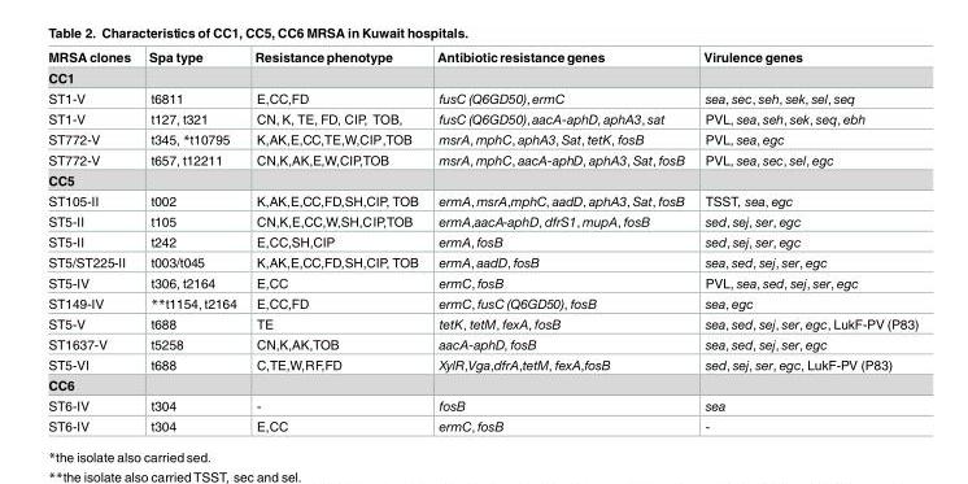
<table><thead><tr><td>MRSA clones</td><td>Spa type</td><td>Resistance phenotype</td><td>Antibioticresistance genes</td><td>Virulence genes</td></tr></thead><tbody><tr><td colspan="5">CC1</td></tr><tr><td>ST1-V</td><td>t6811</td><td>E,CC,FD</td><td>fusC (Q6GD50), ermC</td><td>sea, sec, seh, sek, sel, seq</td></tr><tr><td>ST1-V</td><td>t127, t321</td><td>CN, K, TE, FD, CIP, TOB,</td><td>fusC (Q6GD50), aacA-aphD, aphA3, sat</td><td>PVL, sea, seh, sek, seq, ebh</td></tr><tr><td>ST772-V</td><td>t345, *t10795</td><td>K,AK,E,CC,TE,W,CIP,TOB</td><td>msrA, mphC, aphA3, Sat, tetK, fosB</td><td>PVL, sea, egc</td></tr><tr><td>ST772-V</td><td>t657, t12211</td><td>CN,K,AK,E,W,CIP,TOB</td><td>msrA, mphC, aacA-aphD, aphA3, Sat, fosB</td><td>PVL, sea, sec, sel, egc</td></tr><tr><td colspan="5">CC5</td></tr><tr><td>ST105-II</td><td>t002</td><td>K,AK,E,CC,FD,SH,CIP, TOB</td><td>ermA, msrA,mphC, aadD, aphA3, Sat, fosB</td><td>TSST, sea, egc</td></tr><tr><td>ST5-II</td><td>t105</td><td>CN,K,E,CC,W,SH,CIP,TOB</td><td>ermA,aacA-aphD, dfrS1, mupA, fosB</td><td>sed, sej, ser, egc</td></tr><tr><td>ST5-II</td><td>t242</td><td>E,CC,SH,CIP</td><td>ermA, fosB</td><td>sed, sej, ser, egc</td></tr><tr><td>ST5/ST225-II</td><td>t003/t045</td><td>K,AK,E,CC,FD,SH,CIP, TOB</td><td>ermA, aadD, fosB</td><td>sea, sed, sej, ser, egc</td></tr><tr><td>ST5-IV</td><td>t306, t2164</td><td>E,CC</td><td>ermC, fosB</td><td>PVL, sea, sed, sej, ser, egc</td></tr><tr><td>ST149-IV</td><td>**t1154, t2164</td><td>E,CC,FD</td><td>ermC, fusC (Q6GD50), fosB</td><td>sea, egc</td></tr><tr><td>ST5-V</td><td>t688</td><td>TE</td><td>tetK, tetM, fexA, fosB</td><td>sea, sed, sej, ser, egc, LukF-PV (P83)</td></tr><tr><td>ST1637-V</td><td>t5258</td><td>CN,K,AK,TOB</td><td>aacA-aphD, fosB</td><td>sea, sed, sej, ser, egc</td></tr><tr><td>ST5-VI</td><td>t688</td><td>C,TE,W,RF,FD</td><td>XylR,Vga,dfrA,tetM, fexA,fosB</td><td>sed, sej, ser, egc, LukF-PV (P83)</td></tr><tr><td colspan="5">CC6</td></tr><tr><td>ST6-IV</td><td>t304</td><td>-</td><td>fosB</td><td>sea</td></tr><tr><td>ST6-IV</td><td>t304</td><td>E,CC</td><td>ermC, fosB</td><td>-</td></tr></tbody></table>